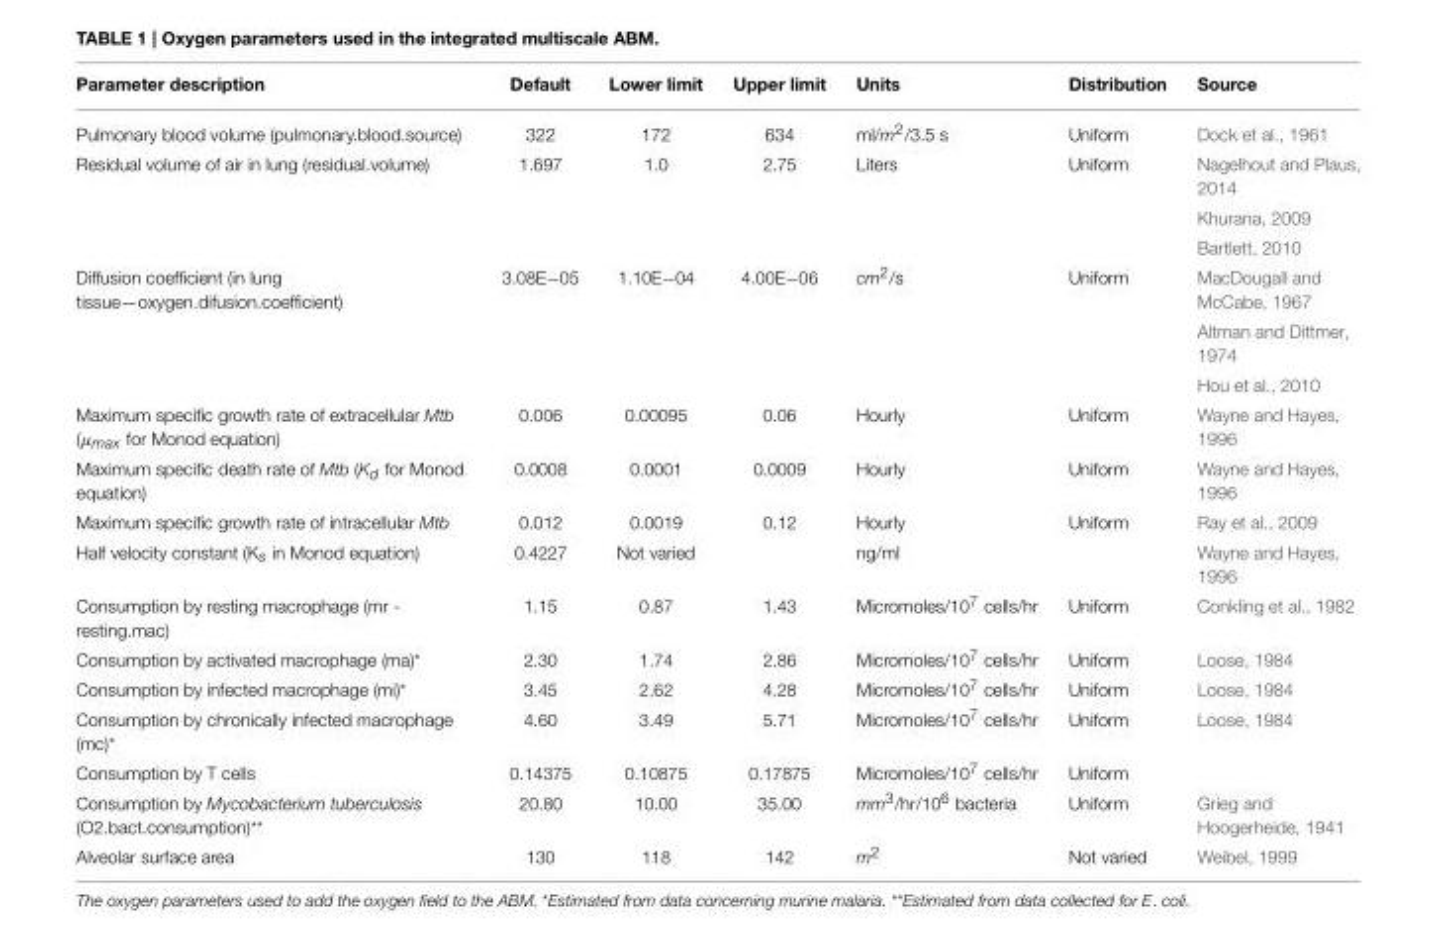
<table><thead><tr><td>Parameter description</td><td>Default</td><td>Lower limit</td><td>Upper limit</td><td>Units</td><td>Distribution</td><td>Source</td></tr></thead><tbody><tr><td>Pulmonary blood volume (pulmonary.blood.source)</td><td>322</td><td>172</td><td>634</td><td>ml/m<sup>2</sup>/3.5 s</td><td>Uniform</td><td>Dock et al., 1961</td></tr><tr><td rowspan="3">Residual volume of air in lung (residual.volume)</td><td>1.697</td><td>1.0</td><td>2.75</td><td>Liters</td><td>Uniform</td><td>Nagelhout and Plaus, 2014</td></tr><tr><td></td><td></td><td></td><td></td><td></td><td>Khurana, 2009</td></tr><tr><td></td><td></td><td></td><td></td><td></td><td>Bartlett, 2010</td></tr><tr><td rowspan="3">Diffusion coefficient (in lung tissue—oxygen.difusion.coefficient)</td><td>3.08E−05</td><td>1.10E−04</td><td>4.00E−06</td><td>cm<sup>2</sup>/s</td><td>Uniform</td><td>MacDougall and McCabe, 1967</td></tr><tr><td></td><td></td><td></td><td></td><td></td><td>Altman and Dittmer, 1974</td></tr><tr><td></td><td></td><td></td><td></td><td></td><td>Hou et al., 2010</td></tr><tr><td>Maximum specific growth rate of extracellular Mtb (µ<sub>max</sub> for Monod equation)</td><td>0.006</td><td>0.00095</td><td>0.06</td><td>Hourly</td><td>Uniform</td><td>Wayne and Hayes, 1996</td></tr><tr><td>Maximum specific death rate of Mtb (K<sub>d</sub> for Monod equation)</td><td>0.0008</td><td>0.0001</td><td>0.0009</td><td>Hourly</td><td>Uniform</td><td>Wayne and Hayes, 1996</td></tr><tr><td>Maximum specific growth rate of intracellular Mtb</td><td>0.012</td><td>0.0019</td><td>0.12</td><td>Hourly</td><td>Uniform</td><td>Ray et al., 2009</td></tr><tr><td>Half velocity constant (K<sub>s</sub> in Monod equation)</td><td>0.4227</td><td>Not varied</td><td></td><td>ng/ml</td><td></td><td>Wayne and Hayes, 1996</td></tr><tr><td>Consumption by resting macrophage (mr - resting.mac)</td><td>1.15</td><td>0.87</td><td>1.43</td><td>Micromoles/10<sup>7</sup> cells/hr</td><td>Uniform</td><td>Conkling et al., 1982</td></tr><tr><td>Consumption by activated macrophage (ma)*</td><td>2.30</td><td>1.74</td><td>2.86</td><td>Micromoles/10<sup>7</sup> cells/hr</td><td>Uniform</td><td>Loose, 1984</td></tr><tr><td>Consumption by infected macrophage (mi)*</td><td>3.45</td><td>2.62</td><td>4.28</td><td>Micromoles/10<sup>7</sup> cells/hr</td><td>Uniform</td><td>Loose, 1984</td></tr><tr><td>Consumption by chronically infected macrophage (mc)*</td><td>4.60</td><td>3.49</td><td>5.71</td><td>Micromoles/10<sup>7</sup> cells/hr</td><td>Uniform</td><td>Loose, 1984</td></tr><tr><td>Consumption by T cells</td><td>0.14375</td><td>0.10875</td><td>0.17875</td><td>Micromoles/10<sup>7</sup> cells/hr</td><td>Uniform</td><td></td></tr><tr><td>Consumption by Mycobacterium tuberculosis (O2.bact.consumption)**</td><td>20.80</td><td>10.00</td><td>35.00</td><td>mm<sup>3</sup>/hr/10<sup>6</sup> bacteria</td><td>Uniform</td><td>Grieg and Hoogerheide, 1941</td></tr><tr><td>Alveolar surface area</td><td>130</td><td>118</td><td>142</td><td>m<sup>2</sup></td><td>Not varied</td><td>Weibel, 1999</td></tr></tbody></table>